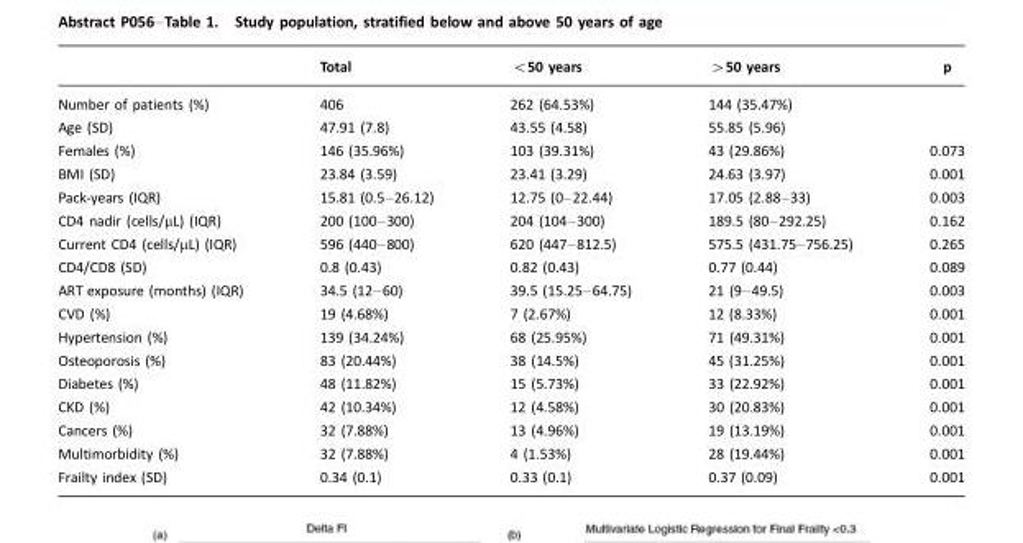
<table><thead><tr><td></td><td>Total</td><td>&lt;50 years</td><td>&gt;50 years</td><td>p</td></tr></thead><tbody><tr><td>Number of patients (%)</td><td>406</td><td>262 (64.53%)</td><td>144 (35.47%)</td><td></td></tr><tr><td>Age (SD)</td><td>47.91 (7.8)</td><td>43.55 (4.58)</td><td>55.85 (5.96)</td><td></td></tr><tr><td>Females (%)</td><td>146 (35.96%)</td><td>103 (39.31%)</td><td>43 (29.86%)</td><td>0.073</td></tr><tr><td>BMI (SD)</td><td>23.84 (3.59)</td><td>23.41 (3.29)</td><td>24.63 (3.97)</td><td>0.001</td></tr><tr><td>Pack-years (IQR)</td><td>15.81 (0.5–26.12)</td><td>12.75 (0–22.44)</td><td>17.05 (2.88–33)</td><td>0.003</td></tr><tr><td>CD4 nadir (cells/µL) (IQR)</td><td>200 (100–300)</td><td>204 (104–300)</td><td>189.5 (80–292.25)</td><td>0.162</td></tr><tr><td>Current CD4 (cells/µL) (IQR)</td><td>596 (440–800)</td><td>620 (447–812.5)</td><td>575.5 (431.75–756.25)</td><td>0.265</td></tr><tr><td>CD4/CD8 (SD)</td><td>0.8 (0.43)</td><td>0.82 (0.43)</td><td>0.77 (0.44)</td><td>0.089</td></tr><tr><td>ART exposure (months) (IQR)</td><td>34.5 (12–60)</td><td>39.5 (15.25–64.75)</td><td>21 (9–49.5)</td><td>0.003</td></tr><tr><td>CVD (%)</td><td>19 (4.68%)</td><td>7 (2.67%)</td><td>12 (8.33%)</td><td>0.001</td></tr><tr><td>Hypertension (%)</td><td>139 (34.24%)</td><td>68 (25.95%)</td><td>71 (49.31%)</td><td>0.001</td></tr><tr><td>Osteoporosis (%)</td><td>83 (20.44%)</td><td>38 (14.5%)</td><td>45 (31.25%)</td><td>0.001</td></tr><tr><td>Diabetes (%)</td><td>48 (11.82%)</td><td>15 (5.73%)</td><td>33 (22.92%)</td><td>0.001</td></tr><tr><td>CKD (%)</td><td>42 (10.34%)</td><td>12 (4.58%)</td><td>30 (20.83%)</td><td>0.001</td></tr><tr><td>Cancers (%)</td><td>32 (7.88%)</td><td>13 (4.96%)</td><td>19 (13.19%)</td><td>0.001</td></tr><tr><td>Multimorbidity (%)</td><td>32 (7.88%)</td><td>4 (1.53%)</td><td>28 (19.44%)</td><td>0.001</td></tr><tr><td>Frailty index (SD)</td><td>0.34 (0.1)</td><td>0.33 (0.1)</td><td>0.37 (0.09)</td><td>0.001</td></tr></tbody></table>